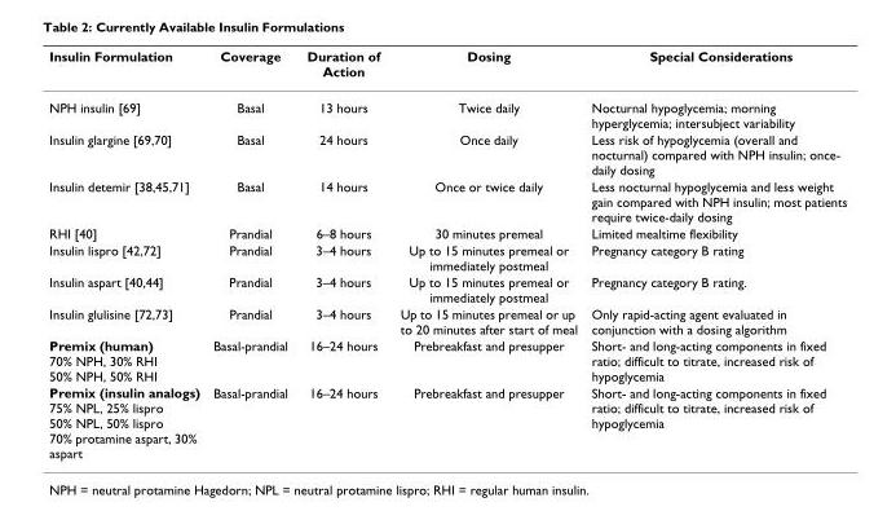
<table><thead><tr><td>Insulin Formulation</td><td>Coverage</td><td>Duration of Action</td><td>Dosing</td><td>Special Considerations</td></tr></thead><tbody><tr><td>NPH insulin [69]</td><td>Basal</td><td>13 hours</td><td>Twice daily</td><td>Nocturnal hypoglycemia; morning hyperglycemia; intersubject variability</td></tr><tr><td>Insulin glargine [69,70]</td><td>Basal</td><td>24 hours</td><td>Once daily</td><td>Less risk of hypoglycemia (overall and nocturnal) compared with NPH insulin; once- daily dosing</td></tr><tr><td>Insulin detemir [38,45,71]</td><td>Basal</td><td>14 hours</td><td>Once or twice daily</td><td>Less nocturnal hypoglycemia and less weight gain compared with NPH insulin; most patients require twice-daily dosing</td></tr><tr><td>RHI [40]</td><td>Prandial</td><td>6–8 hours</td><td>30 minutes premeal</td><td>Limited mealtime flexibility</td></tr><tr><td>Insulin lispro [42,72]</td><td>Prandial</td><td>3–4 hours</td><td>Up to 15 minutes premeal or immediately postmeal</td><td>Pregnancy category B rating</td></tr><tr><td>Insulin aspart [40,44]</td><td>Prandial</td><td>3–4 hours</td><td>Up to 15 minutes premeal or immediately postmeal</td><td>Pregnancy category B rating.</td></tr><tr><td>Insulin glulisine [72,73]</td><td>Prandial</td><td>3–4 hours</td><td>Up to 15 minutes premeal or up to 20 minutes after start of meal</td><td>Only rapid-acting agent evaluated in conjunction with a dosing algorithm</td></tr><tr><td>Premix (human) 70% NPH, 30% RHI 50% NPH, 50% RHI</td><td>Basal-prandial</td><td>16–24 hours</td><td>Prebreakfast and presupper</td><td>Short- and long-acting components in fixed ratio; difficult to titrate, increased risk of hypoglycemia</td></tr><tr><td>Premix (insulin analogs) 75% NPL, 25% lispro 50% NPL, 50% lispro 70% protamine aspart, 30% aspart</td><td>Basal-prandial</td><td>16–24 hours</td><td>Prebreakfast and presupper</td><td>Short- and long-acting components in fixed ratio; difficult to titrate, increased risk of hypoglycemia</td></tr></tbody></table>